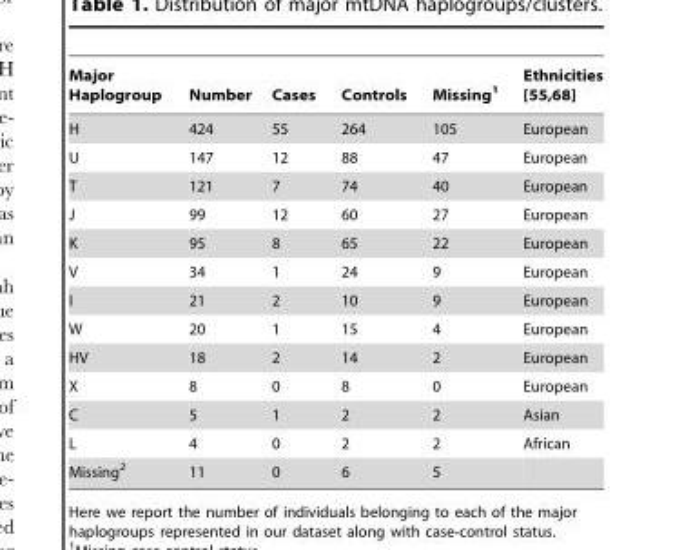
<table><thead><tr><td>Major Haplogroup</td><td>Number</td><td>Cases</td><td>Controls</td><td>Missing<sup>1</sup></td><td>Ethnicities [55,68]</td></tr></thead><tbody><tr><td>H</td><td>424</td><td>55</td><td>264</td><td>105</td><td>European</td></tr><tr><td>U</td><td>147</td><td>12</td><td>88</td><td>47</td><td>European</td></tr><tr><td>T</td><td>121</td><td>7</td><td>74</td><td>40</td><td>European</td></tr><tr><td>J</td><td>99</td><td>12</td><td>60</td><td>27</td><td>European</td></tr><tr><td>K</td><td>95</td><td>8</td><td>65</td><td>22</td><td>European</td></tr><tr><td>V</td><td>34</td><td>1</td><td>24</td><td>9</td><td>European</td></tr><tr><td>I</td><td>21</td><td>2</td><td>10</td><td>9</td><td>European</td></tr><tr><td>W</td><td>20</td><td>1</td><td>15</td><td>4</td><td>European</td></tr><tr><td>HV</td><td>18</td><td>2</td><td>14</td><td>2</td><td>European</td></tr><tr><td>X</td><td>8</td><td>0</td><td>8</td><td>0</td><td>European</td></tr><tr><td>C</td><td>5</td><td>1</td><td>2</td><td>2</td><td>Asian</td></tr><tr><td>L</td><td>4</td><td>0</td><td>2</td><td>2</td><td>African</td></tr><tr><td>Missing<sup>2</sup></td><td>11</td><td>0</td><td>6</td><td>5</td><td></td></tr></tbody></table>